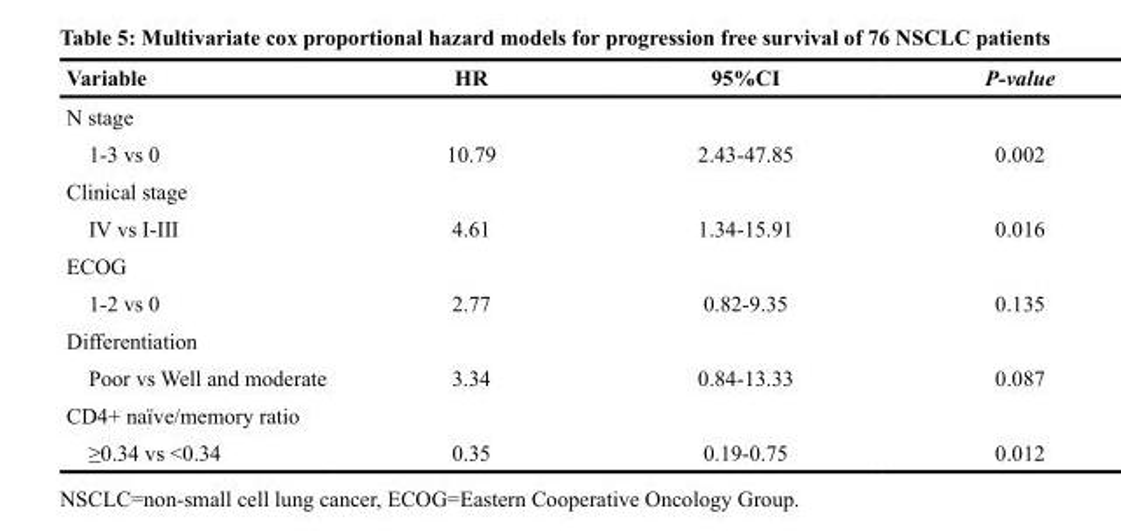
<table><thead><tr><td>Variable</td><td>HR</td><td>95%CI</td><td>P-value</td></tr></thead><tbody><tr><td colspan="4">N stage</td></tr><tr><td>1-3 vs 0</td><td>10.79</td><td>2.43-47.85</td><td>0.002</td></tr><tr><td colspan="4">Clinical stage</td></tr><tr><td>IV vs I-III</td><td>4.61</td><td>1.34-15.91</td><td>0.016</td></tr><tr><td colspan="4">ECOG</td></tr><tr><td>1-2 vs 0</td><td>2.77</td><td>0.82-9.35</td><td>0.135</td></tr><tr><td colspan="4">Differentiation</td></tr><tr><td>Poor vs Well and moderate</td><td>3.34</td><td>0.84-13.33</td><td>0.087</td></tr><tr><td colspan="4">CD4+ naïve/memory ratio</td></tr><tr><td>≥0.34 vs &lt;0.34</td><td>0.35</td><td>0.19-0.75</td><td>0.012</td></tr></tbody></table>